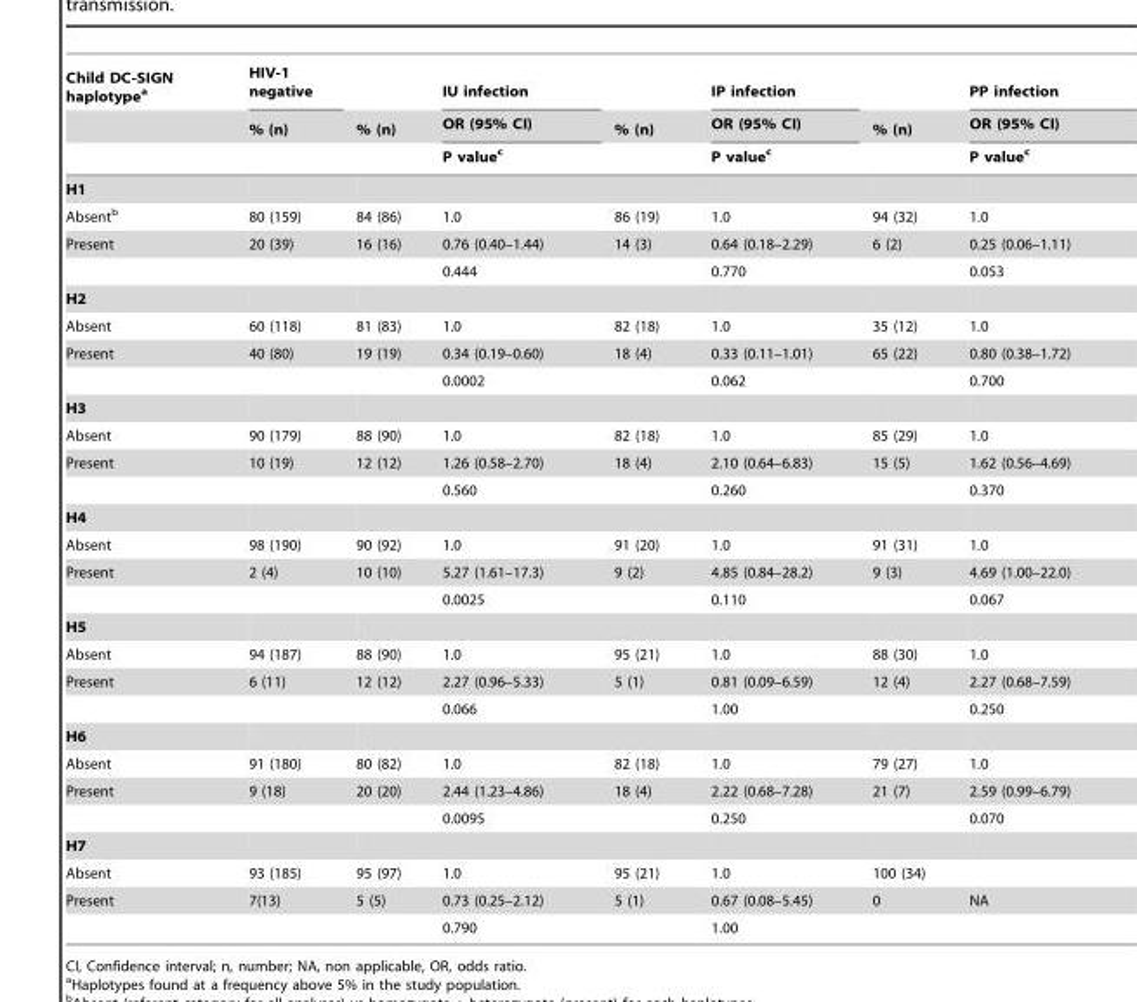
<table><thead><tr><td rowspan="3">Child DC-SIGN haplotype<sup>a</sup></td><td rowspan="3">HIV-1 negative % (n)</td><td rowspan="3">% (n)</td><td rowspan="3">IU infection OR (95% CI) P value<sup>c</sup></td><td rowspan="3">% (n)</td><td rowspan="3">IP infection OR (95% CI) P value<sup>c</sup></td><td rowspan="3">% (n)</td><td rowspan="3">PP infection OR (95% CI) P value<sup>c</sup></td></tr><tr></tr><tr></tr></thead><tbody><tr><td colspan="8">H1</td></tr><tr><td>Absent<sup>b</sup></td><td>80 (159)</td><td>84 (86)</td><td>1.0</td><td>86 (19)</td><td>1.0</td><td>94 (32)</td><td>1.0</td></tr><tr><td rowspan="2">Present</td><td>20 (39)</td><td>16 (16)</td><td>0.76 (0.40–1.44)</td><td>14 (3)</td><td>0.64 (0.18–2.29)</td><td>6 (2)</td><td>0.25 (0.06–1.11)</td></tr><tr><td></td><td></td><td>0.444</td><td></td><td>0.770</td><td></td><td>0.053</td></tr><tr><td colspan="8">H2</td></tr><tr><td>Absent</td><td>60 (118)</td><td>81 (83)</td><td>1.0</td><td>82 (18)</td><td>1.0</td><td>35 (12)</td><td>1.0</td></tr><tr><td rowspan="2">Present</td><td>40 (80)</td><td>19 (19)</td><td>0.34 (0.19–0.60)</td><td>18 (4)</td><td>0.33 (0.11–1.01)</td><td>65 (22)</td><td>0.80 (0.38–1.72)</td></tr><tr><td></td><td></td><td>0.0002</td><td></td><td>0.062</td><td></td><td>0.700</td></tr><tr><td colspan="8">H3</td></tr><tr><td>Absent</td><td>90 (179)</td><td>88 (90)</td><td>1.0</td><td>82 (18)</td><td>1.0</td><td>85 (29)</td><td>1.0</td></tr><tr><td rowspan="2">Present</td><td>10 (19)</td><td>12 (12)</td><td>1.26 (0.58–2.70)</td><td>18 (4)</td><td>2.10 (0.64–6.83)</td><td>15 (5)</td><td>1.62 (0.56–4.69)</td></tr><tr><td></td><td></td><td>0.560</td><td></td><td>0.260</td><td></td><td>0.370</td></tr><tr><td colspan="8">H4</td></tr><tr><td>Absent</td><td>98 (190)</td><td>90 (92)</td><td>1.0</td><td>91 (20)</td><td>1.0</td><td>91 (31)</td><td>1.0</td></tr><tr><td rowspan="2">Present</td><td>2 (4)</td><td>10 (10)</td><td>5.27 (1.61–17.3)</td><td>9 (2)</td><td>4.85 (0.84–28.2)</td><td>9 (3)</td><td>4.69 (1.00–22.0)</td></tr><tr><td></td><td></td><td>0.0025</td><td></td><td>0.110</td><td></td><td>0.067</td></tr><tr><td colspan="8">H5</td></tr><tr><td>Absent</td><td>94 (187)</td><td>88 (90)</td><td>1.0</td><td>95 (21)</td><td>1.0</td><td>88 (30)</td><td>1.0</td></tr><tr><td rowspan="2">Present</td><td>6 (11)</td><td>12 (12)</td><td>2.27 (0.96–5.33)</td><td>5 (1)</td><td>0.81 (0.09–6.59)</td><td>12 (4)</td><td>2.27 (0.68–7.59)</td></tr><tr><td></td><td></td><td>0.066</td><td></td><td>1.00</td><td></td><td>0.250</td></tr><tr><td colspan="8">H6</td></tr><tr><td>Absent</td><td>91 (180)</td><td>80 (82)</td><td>1.0</td><td>82 (18)</td><td>1.0</td><td>79 (27)</td><td>1.0</td></tr><tr><td rowspan="2">Present</td><td>9 (18)</td><td>20 (20)</td><td>2.44 (1.23–4.86)</td><td>18 (4)</td><td>2.22 (0.68–7.28)</td><td>21 (7)</td><td>2.59 (0.99–6.79)</td></tr><tr><td></td><td></td><td>0.0095</td><td></td><td>0.250</td><td></td><td>0.070</td></tr><tr><td colspan="8">H7</td></tr><tr><td>Absent</td><td>93 (185)</td><td>95 (97)</td><td>1.0</td><td>95 (21)</td><td>1.0</td><td>100 (34)</td><td></td></tr><tr><td rowspan="2">Present</td><td>7(13)</td><td>5 (5)</td><td>0.73 (0.25–2.12)</td><td>5 (1)</td><td>0.67 (0.08–5.45)</td><td>0</td><td>NA</td></tr><tr><td></td><td></td><td>0.790</td><td></td><td>1.00</td><td></td><td></td></tr></tbody></table>